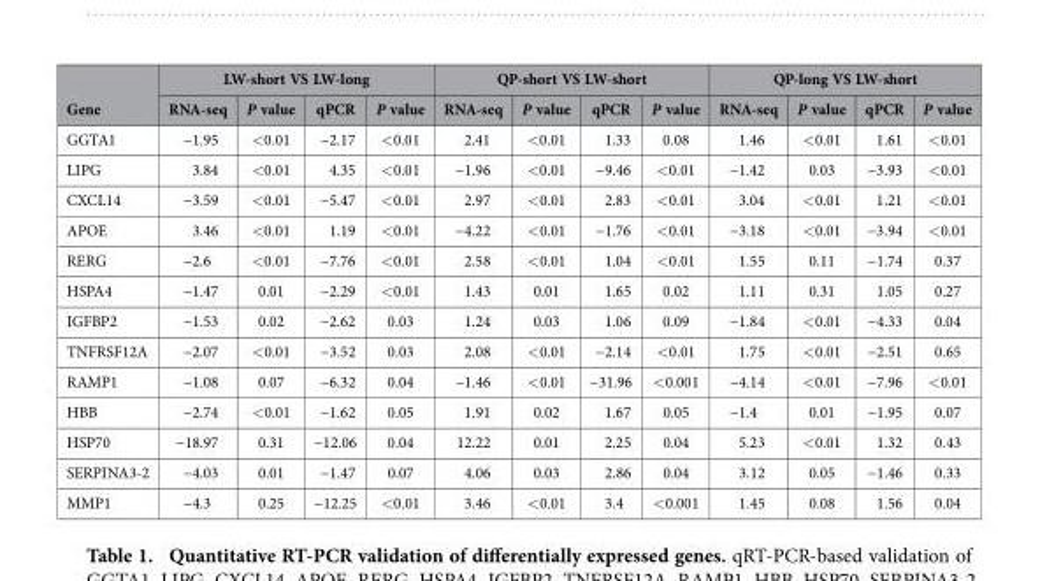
<table><thead><tr><td rowspan="2">Gene</td><td colspan="4">LW-short VS LW-long</td><td colspan="4">QP-short VS LW-short</td><td colspan="4">QP-long VS LW-short</td></tr><tr><td>RNA-seq</td><td>P value</td><td>qPCR</td><td>P value</td><td>RNA-seq</td><td>P value</td><td>qPCR</td><td>P value</td><td>RNA-seq</td><td>P value</td><td>qPCR</td><td>P value</td></tr></thead><tbody><tr><td>GGTA1</td><td>−1.95</td><td>&lt;0.01</td><td>−2.17</td><td>&lt;0.01</td><td>2.41</td><td>&lt;0.01</td><td>1.33</td><td>0.08</td><td>1.46</td><td>&lt;0.01</td><td>1.61</td><td>&lt;0.01</td></tr><tr><td>LIPG</td><td>3.84</td><td>&lt;0.01</td><td>4.35</td><td>&lt;0.01</td><td>−1.96</td><td>&lt;0.01</td><td>−9.46</td><td>&lt;0.01</td><td>−1.42</td><td>0.03</td><td>−3.93</td><td>&lt;0.01</td></tr><tr><td>CXCL14</td><td>−3.59</td><td>&lt;0.01</td><td>−5.47</td><td>&lt;0.01</td><td>2.97</td><td>&lt;0.01</td><td>2.83</td><td>&lt;0.01</td><td>3.04</td><td>&lt;0.01</td><td>1.21</td><td>&lt;0.01</td></tr><tr><td>APOE</td><td>3.46</td><td>&lt;0.01</td><td>1.19</td><td>&lt;0.01</td><td>−4.22</td><td>&lt;0.01</td><td>−1.76</td><td>&lt;0.01</td><td>−3.18</td><td>&lt;0.01</td><td>−3.94</td><td>&lt;0.01</td></tr><tr><td>RERG</td><td>−2.6</td><td>&lt;0.01</td><td>−7.76</td><td>&lt;0.01</td><td>2.58</td><td>&lt;0.01</td><td>1.04</td><td>&lt;0.01</td><td>1.55</td><td>0.11</td><td>−1.74</td><td>0.37</td></tr><tr><td>HSPA4</td><td>−1.47</td><td>0.01</td><td>−2.29</td><td>&lt;0.01</td><td>1.43</td><td>0.01</td><td>1.65</td><td>0.02</td><td>1.11</td><td>0.31</td><td>1.05</td><td>0.27</td></tr><tr><td>IGFBP2</td><td>−1.53</td><td>0.02</td><td>−2.62</td><td>0.03</td><td>1.24</td><td>0.03</td><td>1.06</td><td>0.09</td><td>−1.84</td><td>&lt;0.01</td><td>−4.33</td><td>0.04</td></tr><tr><td>TNFRSF12A</td><td>−2.07</td><td>&lt;0.01</td><td>−3.52</td><td>0.03</td><td>2.08</td><td>&lt;0.01</td><td>−2.14</td><td>&lt;0.01</td><td>1.75</td><td>&lt;0.01</td><td>−2.51</td><td>0.65</td></tr><tr><td>RAMP1</td><td>−1.08</td><td>0.07</td><td>−6.32</td><td>0.04</td><td>−1.46</td><td>&lt;0.01</td><td>−31.96</td><td>&lt;0.001</td><td>−4.14</td><td>&lt;0.01</td><td>−7.96</td><td>&lt;0.01</td></tr><tr><td>HBB</td><td>−2.74</td><td>&lt;0.01</td><td>−1.62</td><td>0.05</td><td>1.91</td><td>0.02</td><td>1.67</td><td>0.05</td><td>−1.4</td><td>0.01</td><td>−1.95</td><td>0.07</td></tr><tr><td>HSP70</td><td>−18.97</td><td>0.31</td><td>−12.06</td><td>0.04</td><td>12.22</td><td>0.01</td><td>2.25</td><td>0.04</td><td>5.23</td><td>&lt;0.01</td><td>1.32</td><td>0.43</td></tr><tr><td>SERPINA3-2</td><td>−4.03</td><td>0.01</td><td>−1.47</td><td>0.07</td><td>4.06</td><td>0.03</td><td>2.86</td><td>0.04</td><td>3.12</td><td>0.05</td><td>−1.46</td><td>0.33</td></tr><tr><td>MMP1</td><td>−4.3</td><td>0.25</td><td>−12.25</td><td>&lt;0.01</td><td>3.46</td><td>&lt;0.01</td><td>3.4</td><td>&lt;0.001</td><td>1.45</td><td>0.08</td><td>1.56</td><td>0.04</td></tr></tbody></table>